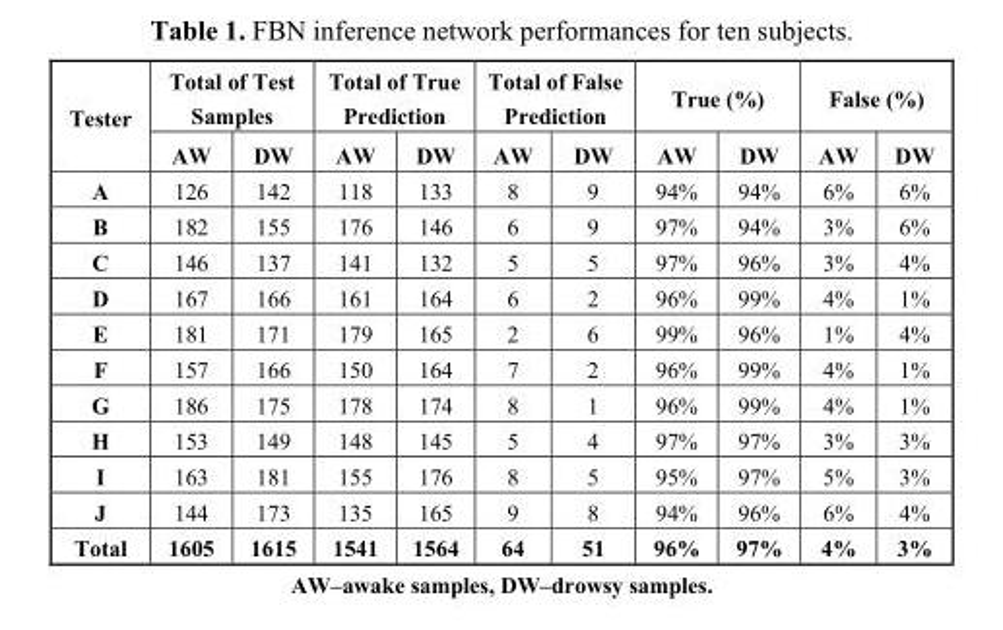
<table><thead><tr><td rowspan="2">Tester</td><td colspan="2">Total of Test Samples</td><td colspan="2">Total of True Prediction</td><td colspan="2">Total of False Prediction</td><td colspan="2">True (%)</td><td colspan="2">False (%)</td></tr><tr><td>AW</td><td>DW</td><td>AW</td><td>DW</td><td>AW</td><td>DW</td><td>AW</td><td>DW</td><td>AW</td><td>DW</td></tr></thead><tbody><tr><td>A</td><td>126</td><td>142</td><td>118</td><td>133</td><td>8</td><td>9</td><td>94%</td><td>94%</td><td>6%</td><td>6%</td></tr><tr><td>B</td><td>182</td><td>155</td><td>176</td><td>146</td><td>6</td><td>9</td><td>97%</td><td>94%</td><td>3%</td><td>6%</td></tr><tr><td>C</td><td>146</td><td>137</td><td>141</td><td>132</td><td>5</td><td>5</td><td>97%</td><td>96%</td><td>3%</td><td>4%</td></tr><tr><td>D</td><td>167</td><td>166</td><td>161</td><td>164</td><td>6</td><td>2</td><td>96%</td><td>99%</td><td>4%</td><td>1%</td></tr><tr><td>E</td><td>181</td><td>171</td><td>179</td><td>165</td><td>2</td><td>6</td><td>99%</td><td>96%</td><td>1%</td><td>4%</td></tr><tr><td>F</td><td>157</td><td>166</td><td>150</td><td>164</td><td>7</td><td>2</td><td>96%</td><td>99%</td><td>4%</td><td>1%</td></tr><tr><td>G</td><td>186</td><td>175</td><td>178</td><td>174</td><td>8</td><td>1</td><td>96%</td><td>99%</td><td>4%</td><td>1%</td></tr><tr><td>H</td><td>153</td><td>149</td><td>148</td><td>145</td><td>5</td><td>4</td><td>97%</td><td>97%</td><td>3%</td><td>3%</td></tr><tr><td>I</td><td>163</td><td>181</td><td>155</td><td>176</td><td>8</td><td>5</td><td>95%</td><td>97%</td><td>5%</td><td>3%</td></tr><tr><td>J</td><td>144</td><td>173</td><td>135</td><td>165</td><td>9</td><td>8</td><td>94%</td><td>96%</td><td>6%</td><td>4%</td></tr><tr><td>Total</td><td>1605</td><td>1615</td><td>1541</td><td>1564</td><td>64</td><td>51</td><td>96%</td><td>97%</td><td>4%</td><td>3%</td></tr></tbody></table>